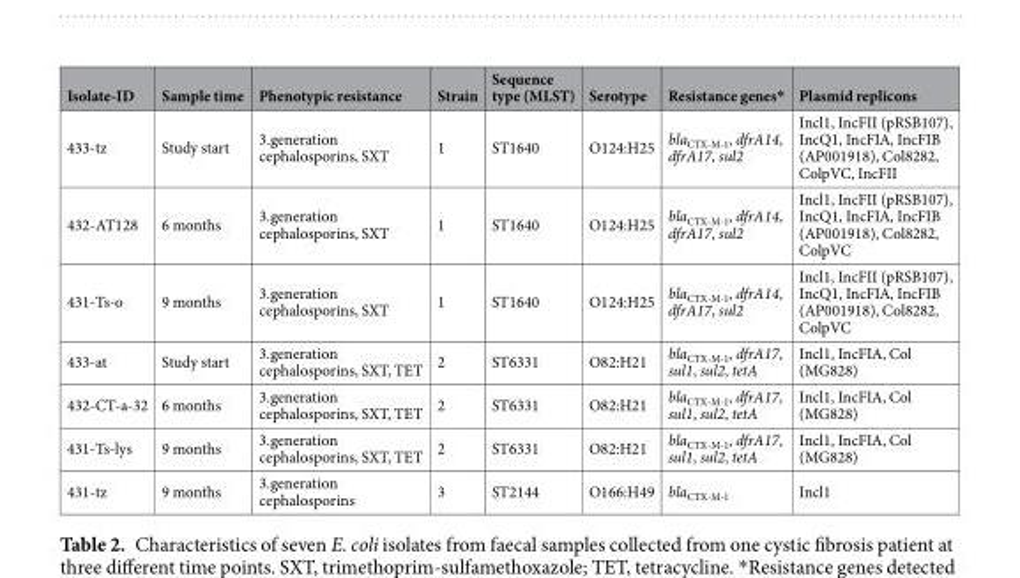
<table><thead><tr><td>Isolate-ID</td><td>Sample time</td><td>Phenotypic resistance</td><td>Strain</td><td>Sequence type (MLST)</td><td>Serotype</td><td>Resistance genes*</td><td>Plasmid replicons</td></tr></thead><tbody><tr><td>433-tz</td><td>Study start</td><td>3.generation cephalosporins, SXT</td><td>1</td><td>ST1640</td><td>O124:H25</td><td>bla<sub>CTX-M-1</sub>, dfrA14, dfrA17, sul2</td><td>Incl1, IncFII (pRSB107), IncQ1, IncFIA, IncFIB (AP001918), Col8282, ColpVC, IncFII</td></tr><tr><td>432-AT128</td><td>6 months</td><td>3.generation cephalosporins, SXT</td><td>1</td><td>ST1640</td><td>O124:H25</td><td>bla<sub>CTX-M-1</sub>, dfrA14, dfrA17, sul2</td><td>Incl1, IncFII (pRSB107), IncQ1, IncFIA, IncFIB (AP001918), Col8282, ColpVC</td></tr><tr><td>431-Ts-o</td><td>9 months</td><td>3.generation cephalosporins, SXT</td><td>1</td><td>ST1640</td><td>O124:H25</td><td>bla<sub>CTX-M-1</sub>, dfrA14, dfrA17, sul2</td><td>Incl1, IncFII (pRSB107), IncQ1, IncFIA, IncFIB (AP001918), Col8282, ColpVC</td></tr><tr><td>433-at</td><td>Study start</td><td>3.generation cephalosporins, SXT, TET</td><td>2</td><td>ST6331</td><td>O82:H21</td><td>bla<sub>CTX-M-1</sub>, dfrA17, sul1, sul2, tetA</td><td>Incl1, IncFIA, Col (MG828)</td></tr><tr><td>432-CT-a-32</td><td>6 months</td><td>3.generation cephalosporins, SXT, TET</td><td>2</td><td>ST6331</td><td>O82:H21</td><td>bla<sub>CTX-M-1</sub>, dfrA17, sul1, sul2, tetA</td><td>Incl1, IncFIA, Col (MG828)</td></tr><tr><td>431-Ts-lys</td><td>9 months</td><td>3.generation cephalosporins, SXT, TET</td><td>2</td><td>ST6331</td><td>O82:H21</td><td>bla<sub>CTX-M-1</sub>, dfrA17, sul1, sul2, tetA</td><td>Incl1, IncFIA, Col (MG828)</td></tr><tr><td>431-tz</td><td>9 months</td><td>3.generation cephalosporins</td><td>3</td><td>ST2144</td><td>O166:H49</td><td>bla<sub>CTX-M-1</sub></td><td>Incl1</td></tr></tbody></table>